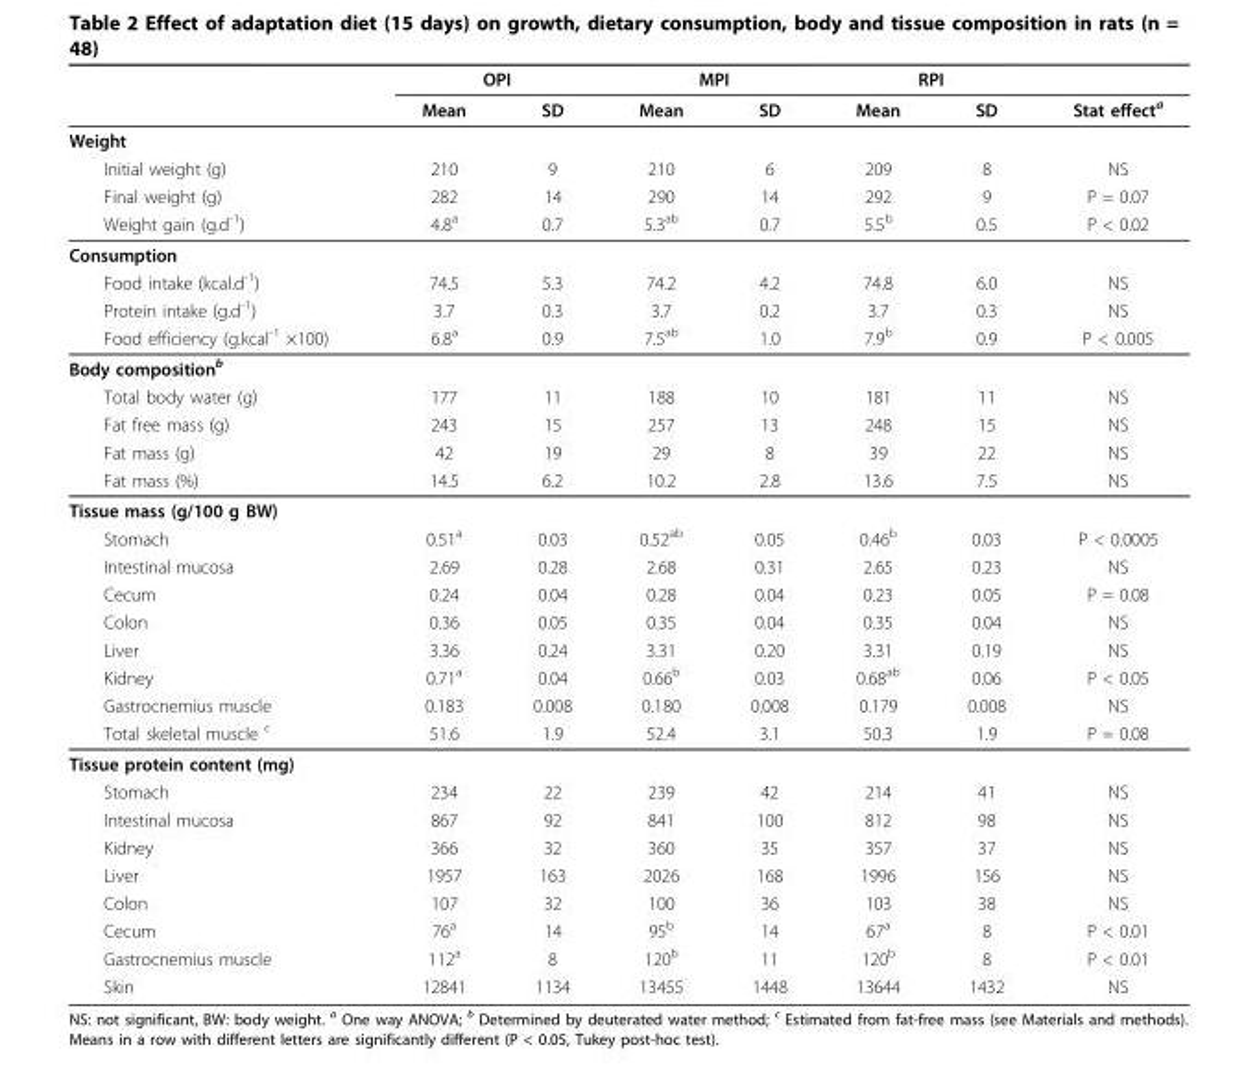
<table><thead><tr><td rowspan="2"></td><td colspan="2">OPI</td><td colspan="2">MPI</td><td colspan="2">RPI</td><td rowspan="2">Stat effect<sup>a</sup></td></tr><tr><td>Mean</td><td>SD</td><td>Mean</td><td>SD</td><td>Mean</td><td>SD</td></tr></thead><tbody><tr><td colspan="8">Weight</td></tr><tr><td>Initial weight (g)</td><td>210</td><td>9</td><td>210</td><td>6</td><td>209</td><td>8</td><td>NS</td></tr><tr><td>Final weight (g)</td><td>282</td><td>14</td><td>290</td><td>14</td><td>292</td><td>9</td><td>P = 0.07</td></tr><tr><td>Weight gain (g.d<sup>-1</sup>)</td><td>4.8<sup>a</sup></td><td>0.7</td><td>5.3<sup>ab</sup></td><td>0.7</td><td>5.5<sup>b</sup></td><td>0.5</td><td>P &lt; 0.02</td></tr><tr><td colspan="8">Consumption</td></tr><tr><td>Food intake (kcal.d<sup>-1</sup>)</td><td>74.5</td><td>5.3</td><td>74.2</td><td>4.2</td><td>74.8</td><td>6.0</td><td>NS</td></tr><tr><td>Protein intake (g.d<sup>-1</sup>)</td><td>3.7</td><td>0.3</td><td>3.7</td><td>0.2</td><td>3.7</td><td>0.3</td><td>NS</td></tr><tr><td>Food efficiency (g.kcal<sup>-1</sup> ×100)</td><td>6.8<sup>a</sup></td><td>0.9</td><td>7.5<sup>ab</sup></td><td>1.0</td><td>7.9<sup>b</sup></td><td>0.9</td><td>P &lt; 0.005</td></tr><tr><td colspan="8">Body composition<sup>b</sup></td></tr><tr><td>Total body water (g)</td><td>177</td><td>11</td><td>188</td><td>10</td><td>181</td><td>11</td><td>NS</td></tr><tr><td>Fat free mass (g)</td><td>243</td><td>15</td><td>257</td><td>13</td><td>248</td><td>15</td><td>NS</td></tr><tr><td>Fat mass (g)</td><td>42</td><td>19</td><td>29</td><td>8</td><td>39</td><td>22</td><td>NS</td></tr><tr><td>Fat mass (%)</td><td>14.5</td><td>6.2</td><td>10.2</td><td>2.8</td><td>13.6</td><td>7.5</td><td>NS</td></tr><tr><td colspan="8">Tissue mass (g/100 g BW)</td></tr><tr><td>Stomach</td><td>0.51<sup>a</sup></td><td>0.03</td><td>0.52<sup>ab</sup></td><td>0.05</td><td>0.46<sup>b</sup></td><td>0.03</td><td>P &lt; 0.0005</td></tr><tr><td>Intestinal mucosa</td><td>2.69</td><td>0.28</td><td>2.68</td><td>0.31</td><td>2.65</td><td>0.23</td><td>NS</td></tr><tr><td>Cecum</td><td>0.24</td><td>0.04</td><td>0.28</td><td>0.04</td><td>0.23</td><td>0.05</td><td>P = 0.08</td></tr><tr><td>Colon</td><td>0.36</td><td>0.05</td><td>0.35</td><td>0.04</td><td>0.35</td><td>0.04</td><td>NS</td></tr><tr><td>Liver</td><td>3.36</td><td>0.24</td><td>3.31</td><td>0.20</td><td>3.31</td><td>0.19</td><td>NS</td></tr><tr><td>Kidney</td><td>0.71<sup>a</sup></td><td>0.04</td><td>0.66<sup>b</sup></td><td>0.03</td><td>0.68<sup>ab</sup></td><td>0.06</td><td>P &lt; 0.05</td></tr><tr><td>Gastrocnemius muscle</td><td>0.183</td><td>0.008</td><td>0.180</td><td>0.008</td><td>0.179</td><td>0.008</td><td>NS</td></tr><tr><td>Total skeletal muscle <sup>c</sup></td><td>51.6</td><td>1.9</td><td>52.4</td><td>3.1</td><td>50.3</td><td>1.9</td><td>P = 0.08</td></tr><tr><td colspan="8">Tissue protein content (mg)</td></tr><tr><td>Stomach</td><td>234</td><td>22</td><td>239</td><td>42</td><td>214</td><td>41</td><td>NS</td></tr><tr><td>Intestinal mucosa</td><td>867</td><td>92</td><td>841</td><td>100</td><td>812</td><td>98</td><td>NS</td></tr><tr><td>Kidney</td><td>366</td><td>32</td><td>360</td><td>35</td><td>357</td><td>37</td><td>NS</td></tr><tr><td>Liver</td><td>1957</td><td>163</td><td>2026</td><td>168</td><td>1996</td><td>156</td><td>NS</td></tr><tr><td>Colon</td><td>107</td><td>32</td><td>100</td><td>36</td><td>103</td><td>38</td><td>NS</td></tr><tr><td>Cecum</td><td>76<sup>a</sup></td><td>14</td><td>95<sup>b</sup></td><td>14</td><td>67<sup>a</sup></td><td>8</td><td>P &lt; 0.01</td></tr><tr><td>Gastrocnemius muscle</td><td>112<sup>a</sup></td><td>8</td><td>120<sup>b</sup></td><td>11</td><td>120<sup>b</sup></td><td>8</td><td>P &lt; 0.01</td></tr><tr><td>Skin</td><td>12841</td><td>1134</td><td>13455</td><td>1448</td><td>13644</td><td>1432</td><td>NS</td></tr></tbody></table>